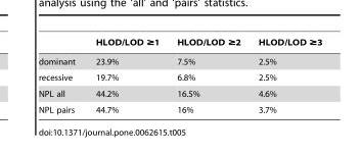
<table><thead><tr><td></td><td>HLOD/LOD ≥1</td><td>HLOD/LOD ≥2</td><td>HLOD/LOD ≥3</td></tr></thead><tbody><tr><td>dominant</td><td>23.9%</td><td>7.5%</td><td>2.5%</td></tr><tr><td>recessive</td><td>19.7%</td><td>6.8%</td><td>2.5%</td></tr><tr><td>NPL all</td><td>44.2%</td><td>16.5%</td><td>4.6%</td></tr><tr><td>NPL pairs</td><td>44.7%</td><td>16%</td><td>3.7%</td></tr></tbody></table>